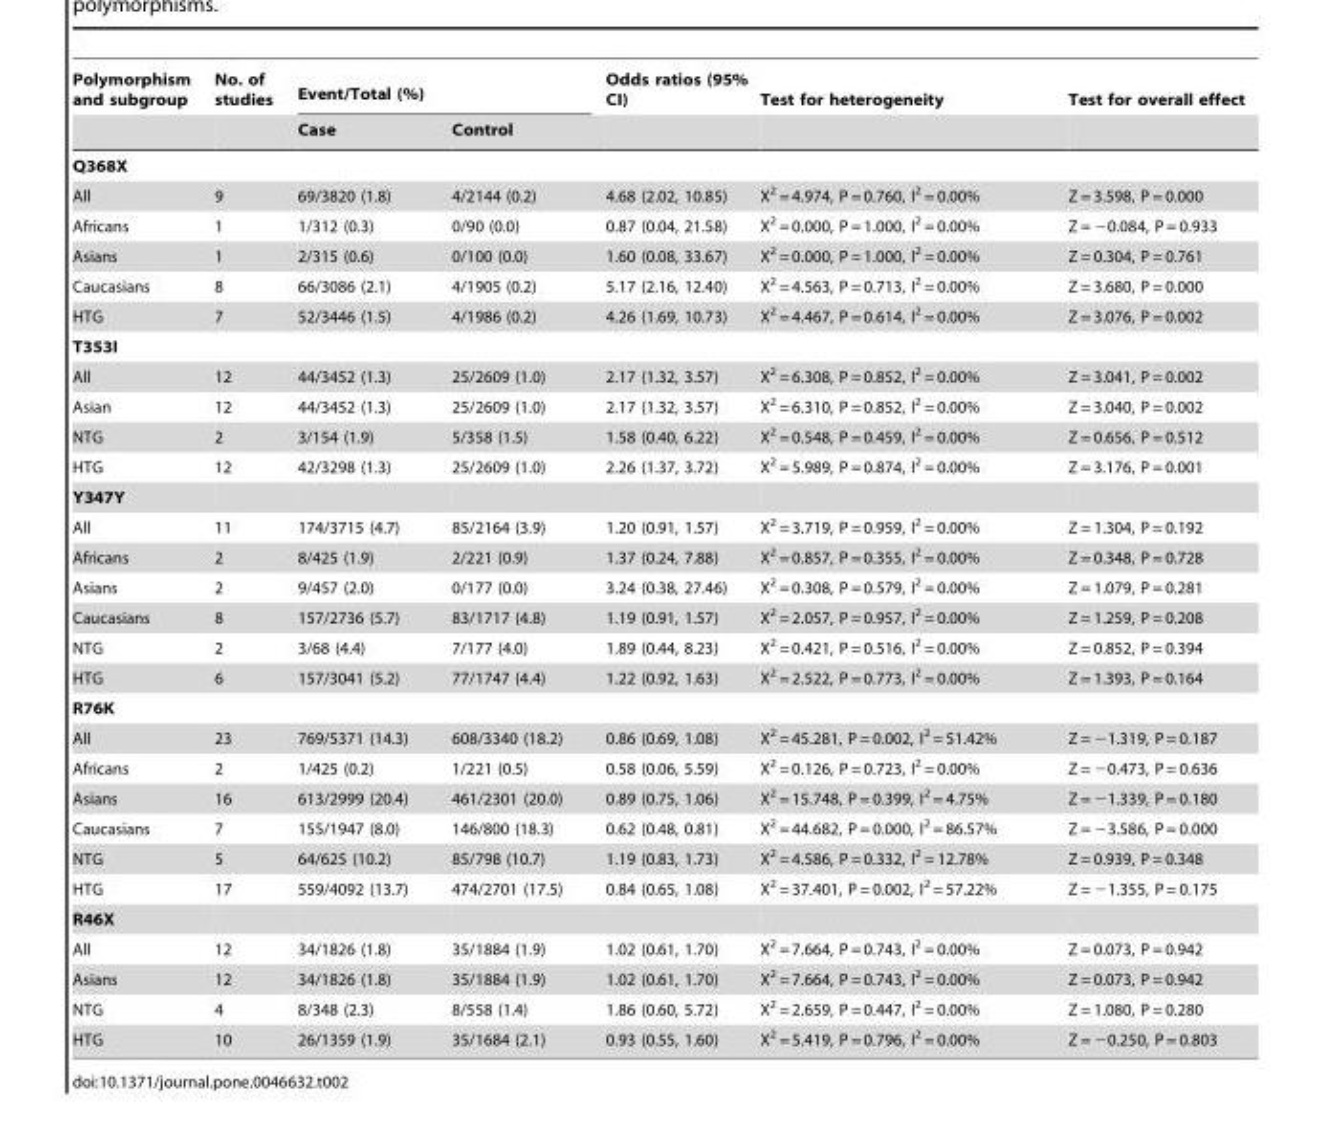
<table><thead><tr><td rowspan="2">Polymorphism and subgroup</td><td rowspan="2">No. of studies</td><td colspan="2">Event/Total (%)</td><td rowspan="2">Odds ratios (95% CI)</td><td rowspan="2">Test for heterogeneity</td><td rowspan="2">Test for overall effect</td></tr><tr><td>Case</td><td>Control</td></tr></thead><tbody><tr><td colspan="7">Q368X</td></tr><tr><td>All</td><td>9</td><td>69/3820 (1.8)</td><td>4/2144 (0.2)</td><td>4.68 (2.02, 10.85)</td><td>X<sup>2</sup> = 4.974, P = 0.760, I<sup>2</sup> = 0.00%</td><td>Z = 3.598, P = 0.000</td></tr><tr><td>Africans</td><td>1</td><td>1/312 (0.3)</td><td>0/90 (0.0)</td><td>0.87 (0.04, 21.58)</td><td>X<sup>2</sup> = 0.000, P = 1.000, I<sup>2</sup> = 0.00%</td><td>Z = −0.084, P = 0.933</td></tr><tr><td>Asians</td><td>1</td><td>2/315 (0.6)</td><td>0/100 (0.0)</td><td>1.60 (0.08, 33.67)</td><td>X<sup>2</sup> = 0.000, P = 1.000, I<sup>2</sup> = 0.00%</td><td>Z = 0.304, P = 0.761</td></tr><tr><td>Caucasians</td><td>8</td><td>66/3086 (2.1)</td><td>4/1905 (0.2)</td><td>5.17 (2.16, 12.40)</td><td>X<sup>2</sup> = 4.563, P = 0.713, I<sup>2</sup> = 0.00%</td><td>Z = 3.680, P = 0.000</td></tr><tr><td>HTG</td><td>7</td><td>52/3446 (1.5)</td><td>4/1986 (0.2)</td><td>4.26 (1.69, 10.73)</td><td>X<sup>2</sup> = 4.467, P = 0.614, I<sup>2</sup> = 0.00%</td><td>Z = 3.076, P = 0.002</td></tr><tr><td colspan="7">T353I</td></tr><tr><td>All</td><td>12</td><td>44/3452 (1.3)</td><td>25/2609 (1.0)</td><td>2.17 (1.32, 3.57)</td><td>X<sup>2</sup> = 6.308, P = 0.852, I<sup>2</sup> = 0.00%</td><td>Z = 3.041, P = 0.002</td></tr><tr><td>Asian</td><td>12</td><td>44/3452 (1.3)</td><td>25/2609 (1.0)</td><td>2.17 (1.32, 3.57)</td><td>X<sup>2</sup> = 6.310, P = 0.852, I<sup>2</sup> = 0.00%</td><td>Z = 3.040, P = 0.002</td></tr><tr><td>NTG</td><td>2</td><td>3/154 (1.9)</td><td>5/358 (1.5)</td><td>1.58 (0.40, 6.22)</td><td>X<sup>2</sup> = 0.548, P = 0.459, I<sup>2</sup> = 0.00%</td><td>Z = 0.656, P = 0.512</td></tr><tr><td>HTG</td><td>12</td><td>42/3298 (1.3)</td><td>25/2609 (1.0)</td><td>2.26 (1.37, 3.72)</td><td>X<sup>2</sup> = 5.989, P = 0.874, I<sup>2</sup> = 0.00%</td><td>Z = 3.176, P = 0.001</td></tr><tr><td colspan="7">Y347Y</td></tr><tr><td>All</td><td>11</td><td>174/3715 (4.7)</td><td>85/2164 (3.9)</td><td>1.20 (0.91, 1.57)</td><td>X<sup>2</sup> = 3.719, P = 0.959, I<sup>2</sup> = 0.00%</td><td>Z = 1.304, P = 0.192</td></tr><tr><td>Africans</td><td>2</td><td>8/425 (1.9)</td><td>2/221 (0.9)</td><td>1.37 (0.24, 7.88)</td><td>X<sup>2</sup> = 0.857, P = 0.355, I<sup>2</sup> = 0.00%</td><td>Z = 0.348, P = 0.728</td></tr><tr><td>Asians</td><td>2</td><td>9/457 (2.0)</td><td>0/177 (0.0)</td><td>3.24 (0.38, 27.46)</td><td>X<sup>2</sup> = 0.308, P = 0.579, I<sup>2</sup> = 0.00%</td><td>Z = 1.079, P = 0.281</td></tr><tr><td>Caucasians</td><td>8</td><td>157/2736 (5.7)</td><td>83/1717 (4.8)</td><td>1.19 (0.91, 1.57)</td><td>X<sup>2</sup> = 2.057, P = 0.957, I<sup>2</sup> = 0.00%</td><td>Z = 1.259, P = 0.208</td></tr><tr><td>NTG</td><td>2</td><td>3/68 (4.4)</td><td>7/177 (4.0)</td><td>1.89 (0.44, 8.23)</td><td>X<sup>2</sup> = 0.421, P = 0.516, I<sup>2</sup> = 0.00%</td><td>Z = 0.852, P = 0.394</td></tr><tr><td>HTG</td><td>6</td><td>157/3041 (5.2)</td><td>77/1747 (4.4)</td><td>1.22 (0.92, 1.63)</td><td>X<sup>2</sup> = 2.522, P = 0.773, I<sup>2</sup> = 0.00%</td><td>Z = 1.393, P = 0.164</td></tr><tr><td colspan="7">R76K</td></tr><tr><td>All</td><td>23</td><td>769/5371 (14.3)</td><td>608/3340 (18.2)</td><td>0.86 (0.69, 1.08)</td><td>X<sup>2</sup> = 45.281, P = 0.002, I<sup>2</sup> = 51.42%</td><td>Z = −1.319, P = 0.187</td></tr><tr><td>Africans</td><td>2</td><td>1/425 (0.2)</td><td>1/221 (0.5)</td><td>0.58 (0.06, 5.59)</td><td>X<sup>2</sup> = 0.126, P = 0.723, I<sup>2</sup> = 0.00%</td><td>Z = −0.473, P = 0.636</td></tr><tr><td>Asians</td><td>16</td><td>613/2999 (20.4)</td><td>461/2301 (20.0)</td><td>0.89 (0.75, 1.06)</td><td>X<sup>2</sup> = 15.748, P = 0.399, I<sup>2</sup> = 4.75%</td><td>Z = −1.339, P = 0.180</td></tr><tr><td>Caucasians</td><td>7</td><td>155/1947 (8.0)</td><td>146/800 (18.3)</td><td>0.62 (0.48, 0.81)</td><td>X<sup>2</sup> = 44.682, P = 0.000, I<sup>2</sup> = 86.57%</td><td>Z = −3.586, P = 0.000</td></tr><tr><td>NTG</td><td>5</td><td>64/625 (10.2)</td><td>85/798 (10.7)</td><td>1.19 (0.83, 1.73)</td><td>X<sup>2</sup> = 4.586, P = 0.332, I<sup>2</sup> = 12.78%</td><td>Z = 0.939, P = 0.348</td></tr><tr><td>HTG</td><td>17</td><td>559/4092 (13.7)</td><td>474/2701 (17.5)</td><td>0.84 (0.65, 1.08)</td><td>X<sup>2</sup> = 37.401, P = 0.002, I<sup>2</sup> = 57.22%</td><td>Z = −1.355, P = 0.175</td></tr><tr><td colspan="7">R46X</td></tr><tr><td>All</td><td>12</td><td>34/1826 (1.8)</td><td>35/1884 (1.9)</td><td>1.02 (0.61, 1.70)</td><td>X<sup>2</sup> = 7.664, P = 0.743, I<sup>2</sup> = 0.00%</td><td>Z = 0.073, P = 0.942</td></tr><tr><td>Asians</td><td>12</td><td>34/1826 (1.8)</td><td>35/1884 (1.9)</td><td>1.02 (0.61, 1.70)</td><td>X<sup>2</sup> = 7.664, P = 0.743, I<sup>2</sup> = 0.00%</td><td>Z = 0.073, P = 0.942</td></tr><tr><td>NTG</td><td>4</td><td>8/348 (2.3)</td><td>8/558 (1.4)</td><td>1.86 (0.60, 5.72)</td><td>X<sup>2</sup> = 2.659, P = 0.447, I<sup>2</sup> = 0.00%</td><td>Z = 1.080, P = 0.280</td></tr><tr><td>HTG</td><td>10</td><td>26/1359 (1.9)</td><td>35/1684 (2.1)</td><td>0.93 (0.55, 1.60)</td><td>X<sup>2</sup> = 5.419, P = 0.796, I<sup>2</sup> = 0.00%</td><td>Z = −0.250, P = 0.803</td></tr></tbody></table>